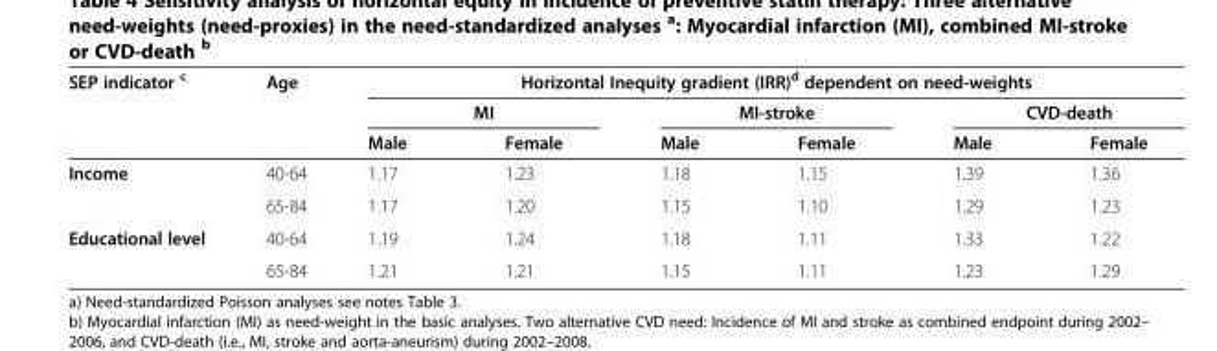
<table><thead><tr><td rowspan="3">SEP indicator <sup>c</sup></td><td rowspan="3">Age</td><td colspan="6">Horizontal Inequity gradient (IRR)<sup>d</sup> dependent on need-weights</td></tr><tr><td colspan="2">MI</td><td colspan="2">MI-stroke</td><td colspan="2">CVD-death</td></tr><tr><td>Male</td><td>Female</td><td>Male</td><td>Female</td><td>Male</td><td>Female</td></tr></thead><tbody><tr><td rowspan="2">Income</td><td>40-64</td><td>1.17</td><td>1.23</td><td>1.18</td><td>1.15</td><td>1.39</td><td>1.36</td></tr><tr><td>65-84</td><td>1.17</td><td>1.20</td><td>1.15</td><td>1.10</td><td>1.29</td><td>1.23</td></tr><tr><td rowspan="2">Educational level</td><td>40-64</td><td>1.19</td><td>1.24</td><td>1.18</td><td>1.11</td><td>1.33</td><td>1.22</td></tr><tr><td>65-84</td><td>1.21</td><td>1.21</td><td>1.15</td><td>1.11</td><td>1.23</td><td>1.29</td></tr></tbody></table>